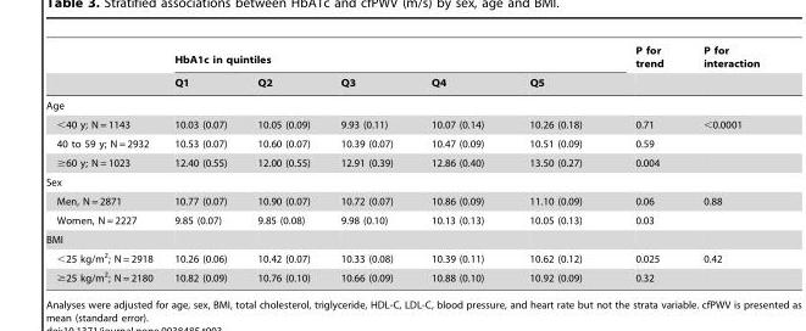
<table><thead><tr><td rowspan="2"></td><td colspan="5">HbA1c in quintiles</td><td rowspan="2">P for trend</td><td rowspan="2">P for interaction</td></tr><tr><td>Q1</td><td>Q2</td><td>Q3</td><td>Q4</td><td>Q5</td></tr></thead><tbody><tr><td colspan="8">Age</td></tr><tr><td>&lt;40 y; N = 1143</td><td>10.03 (0.07)</td><td>10.05 (0.09)</td><td>9.93 (0.11)</td><td>10.07 (0.14)</td><td>10.26 (0.18)</td><td>0.71</td><td>&lt;0.0001</td></tr><tr><td>40 to 59 y; N = 2932</td><td>10.53 (0.07)</td><td>10.60 (0.07)</td><td>10.39 (0.07)</td><td>10.47 (0.09)</td><td>10.51 (0.09)</td><td>0.59</td><td></td></tr><tr><td>≥60 y; N = 1023</td><td>12.40 (0.55)</td><td>12.00 (0.55)</td><td>12.91 (0.39)</td><td>12.86 (0.40)</td><td>13.50 (0.27)</td><td>0.004</td><td></td></tr><tr><td colspan="8">Sex</td></tr><tr><td>Men, N = 2871</td><td>10.77 (0.07)</td><td>10.90 (0.07)</td><td>10.72 (0.07)</td><td>10.86 (0.09)</td><td>11.10 (0.09)</td><td>0.06</td><td>0.88</td></tr><tr><td>Women, N = 2227</td><td>9.85 (0.07)</td><td>9.85 (0.08)</td><td>9.98 (0.10)</td><td>10.13 (0.13)</td><td>10.05 (0.13)</td><td>0.03</td><td></td></tr><tr><td colspan="8">BMI</td></tr><tr><td>&lt;25 kg/m<sup>2</sup>; N = 2918</td><td>10.26 (0.06)</td><td>10.42 (0.07)</td><td>10.33 (0.08)</td><td>10.39 (0.11)</td><td>10.62 (0.12)</td><td>0.025</td><td>0.42</td></tr><tr><td>≥25 kg/m<sup>2</sup>; N = 2180</td><td>10.82 (0.09)</td><td>10.76 (0.10)</td><td>10.66 (0.09)</td><td>10.88 (0.10)</td><td>10.92 (0.09)</td><td>0.32</td><td></td></tr></tbody></table>